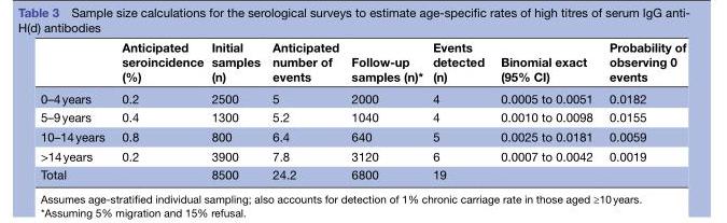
<table><thead><tr><td></td><td>Anticipated seroincidence (%)</td><td>Initial samples (n)</td><td>Anticipated number of events</td><td>Follow-up samples (n)*</td><td>Events detected (n)</td><td>Binomial exact (95% CI)</td><td>Probability of observing 0 events</td></tr></thead><tbody><tr><td>0–4 years</td><td>0.2</td><td>2500</td><td>5</td><td>2000</td><td>4</td><td>0.0005 to 0.0051</td><td>0.0182</td></tr><tr><td>5–9 years</td><td>0.4</td><td>1300</td><td>5.2</td><td>1040</td><td>4</td><td>0.0010 to 0.0098</td><td>0.0155</td></tr><tr><td>10–14 years</td><td>0.8</td><td>800</td><td>6.4</td><td>640</td><td>5</td><td>0.0025 to 0.0181</td><td>0.0059</td></tr><tr><td>&gt;14 years</td><td>0.2</td><td>3900</td><td>7.8</td><td>3120</td><td>6</td><td>0.0007 to 0.0042</td><td>0.0019</td></tr><tr><td>Total</td><td></td><td>8500</td><td>24.2</td><td>6800</td><td>19</td><td></td><td></td></tr></tbody></table>